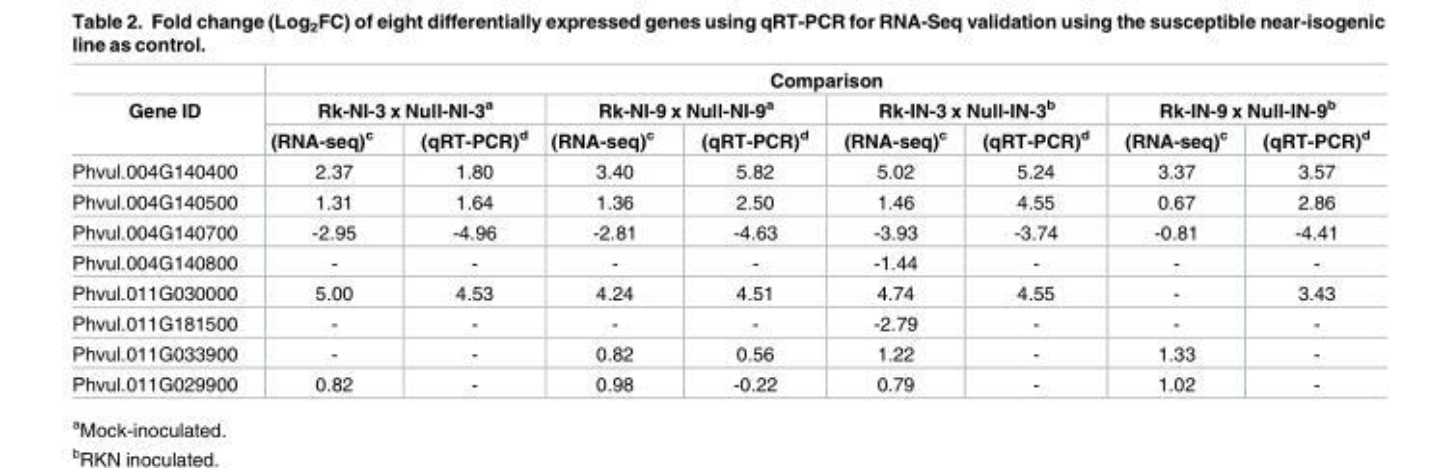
<table><thead><tr><td rowspan="3">Gene ID</td><td colspan="8">Comparison</td></tr><tr><td colspan="2">Rk-NI-3 x Null-NI-3<sup>a</sup></td><td colspan="2">Rk-NI-9 x Null-NI-9<sup>a</sup></td><td colspan="2">Rk-IN-3 x Null-IN-3<sup>b</sup></td><td colspan="2">Rk-IN-9 x Null-IN-9<sup>b</sup></td></tr><tr><td>(RNA-seq)<sup>c</sup></td><td>(qRT-PCR)<sup>d</sup></td><td>(RNA-seq)<sup>c</sup></td><td>(qRT-PCR)<sup>d</sup></td><td>(RNA-seq)<sup>c</sup></td><td>(qRT-PCR)<sup>d</sup></td><td>(RNA-seq)<sup>c</sup></td><td>(qRT-PCR)<sup>d</sup></td></tr></thead><tbody><tr><td>Phvul.004G140400</td><td>2.37</td><td>1.80</td><td>3.40</td><td>5.82</td><td>5.02</td><td>5.24</td><td>3.37</td><td>3.57</td></tr><tr><td>Phvul.004G140500</td><td>1.31</td><td>1.64</td><td>1.36</td><td>2.50</td><td>1.46</td><td>4.55</td><td>0.67</td><td>2.86</td></tr><tr><td>Phvul.004G140700</td><td>-2.95</td><td>-4.96</td><td>-2.81</td><td>-4.63</td><td>-3.93</td><td>-3.74</td><td>-0.81</td><td>-4.41</td></tr><tr><td>Phvul.004G140800</td><td>-</td><td>-</td><td>-</td><td>-</td><td>-1.44</td><td>-</td><td>-</td><td>-</td></tr><tr><td>Phvul.011G030000</td><td>5.00</td><td>4.53</td><td>4.24</td><td>4.51</td><td>4.74</td><td>4.55</td><td>-</td><td>3.43</td></tr><tr><td>Phvul.011G181500</td><td>-</td><td>-</td><td>-</td><td>-</td><td>-2.79</td><td>-</td><td>-</td><td>-</td></tr><tr><td>Phvul.011G033900</td><td>-</td><td>-</td><td>0.82</td><td>0.56</td><td>1.22</td><td>-</td><td>1.33</td><td>-</td></tr><tr><td>Phvul.011G029900</td><td>0.82</td><td>-</td><td>0.98</td><td>-0.22</td><td>0.79</td><td>-</td><td>1.02</td><td>-</td></tr></tbody></table>